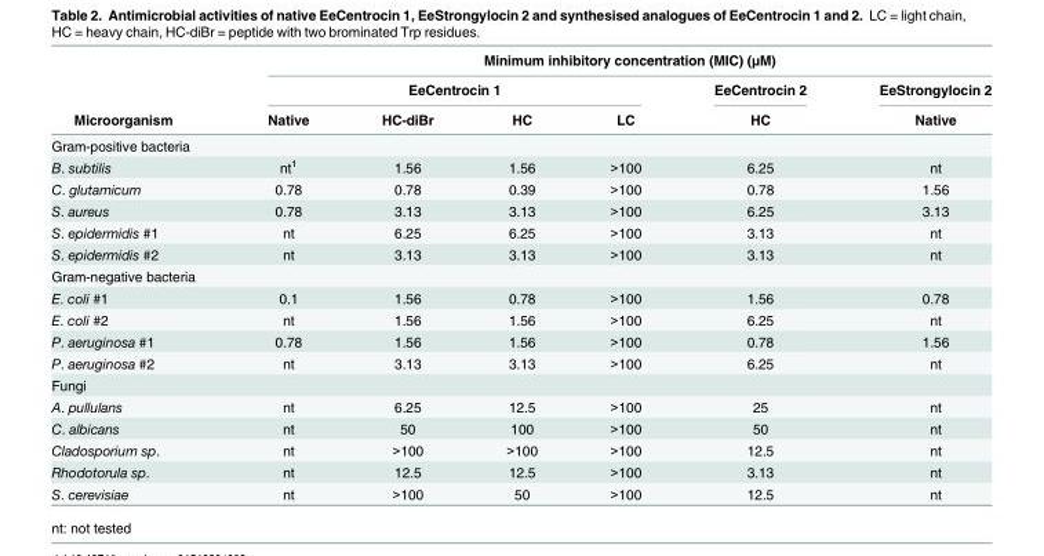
<table><thead><tr><td rowspan="3">Microorganism</td><td colspan="6">Minimum inhibitory concentration (MIC) (μM)</td></tr><tr><td colspan="4">EeCentrocin 1</td><td rowspan="2">EeCentrocin 2 HC</td><td rowspan="2">EeStrongylocin 2 Native</td></tr><tr><td>Native</td><td>HC-diBr</td><td>HC</td><td>LC</td></tr></thead><tbody><tr><td colspan="7">Gram-positive bacteria</td></tr><tr><td>B. subtilis</td><td>nt<sup>1</sup></td><td>1.56</td><td>1.56</td><td>&gt;100</td><td>6.25</td><td>nt</td></tr><tr><td>C. glutamicum</td><td>0.78</td><td>0.78</td><td>0.39</td><td>&gt;100</td><td>0.78</td><td>1.56</td></tr><tr><td>S. aureus</td><td>0.78</td><td>3.13</td><td>3.13</td><td>&gt;100</td><td>6.25</td><td>3.13</td></tr><tr><td>S. epidermidis #1</td><td>nt</td><td>6.25</td><td>6.25</td><td>&gt;100</td><td>3.13</td><td>nt</td></tr><tr><td>S. epidermidis #2</td><td>nt</td><td>3.13</td><td>3.13</td><td>&gt;100</td><td>3.13</td><td>nt</td></tr><tr><td colspan="7">Gram-negative bacteria</td></tr><tr><td>E. coli #1</td><td>0.1</td><td>1.56</td><td>0.78</td><td>&gt;100</td><td>1.56</td><td>0.78</td></tr><tr><td>E. coli #2</td><td>nt</td><td>1.56</td><td>1.56</td><td>&gt;100</td><td>6.25</td><td>nt</td></tr><tr><td>P. aeruginosa #1</td><td>0.78</td><td>1.56</td><td>1.56</td><td>&gt;100</td><td>0.78</td><td>1.56</td></tr><tr><td>P. aeruginosa #2</td><td>nt</td><td>3.13</td><td>3.13</td><td>&gt;100</td><td>6.25</td><td>nt</td></tr><tr><td colspan="7">Fungi</td></tr><tr><td>A. pullulans</td><td>nt</td><td>6.25</td><td>12.5</td><td>&gt;100</td><td>25</td><td>nt</td></tr><tr><td>C. albicans</td><td>nt</td><td>50</td><td>100</td><td>&gt;100</td><td>50</td><td>nt</td></tr><tr><td>Cladosporium sp.</td><td>nt</td><td>&gt;100</td><td>&gt;100</td><td>&gt;100</td><td>12.5</td><td>nt</td></tr><tr><td>Rhodotorula sp.</td><td>nt</td><td>12.5</td><td>12.5</td><td>&gt;100</td><td>3.13</td><td>nt</td></tr><tr><td>S. cerevisiae</td><td>nt</td><td>&gt;100</td><td>50</td><td>&gt;100</td><td>12.5</td><td>nt</td></tr></tbody></table>